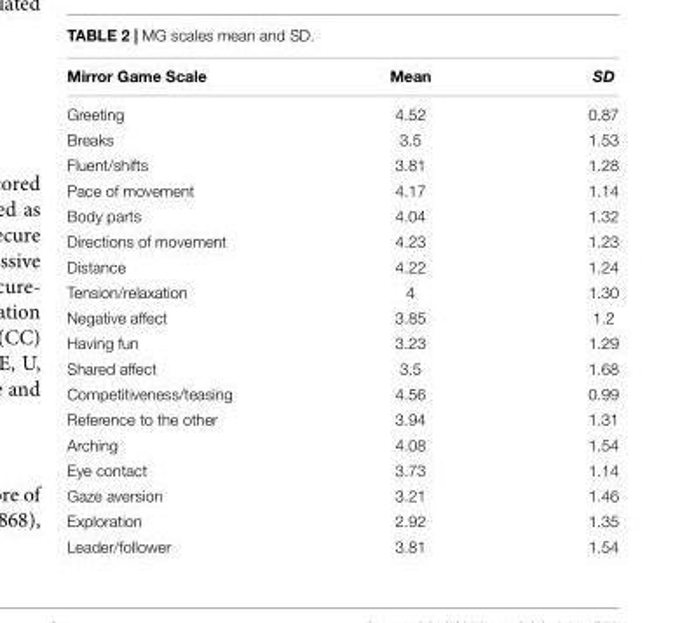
<table><thead><tr><td>Mirror Game Scale</td><td>Mean</td><td>SD</td></tr></thead><tbody><tr><td>Greeting</td><td>4.52</td><td>0.87</td></tr><tr><td>Breaks</td><td>3.5</td><td>1.53</td></tr><tr><td>Fluent/shifts</td><td>3.81</td><td>1.28</td></tr><tr><td>Pace of movement</td><td>4.17</td><td>1.14</td></tr><tr><td>Body parts</td><td>4.04</td><td>1.32</td></tr><tr><td>Directions of movement</td><td>4.23</td><td>1.23</td></tr><tr><td>Distance</td><td>4.22</td><td>1.24</td></tr><tr><td>Tension/relaxation</td><td>4</td><td>1.30</td></tr><tr><td>Negative affect</td><td>3.85</td><td>1.2</td></tr><tr><td>Having fun</td><td>3.23</td><td>1.29</td></tr><tr><td>Shared affect</td><td>3.5</td><td>1.68</td></tr><tr><td>Competitiveness/teasing</td><td>4.56</td><td>0.99</td></tr><tr><td>Reference to the other</td><td>3.94</td><td>1.31</td></tr><tr><td>Arching</td><td>4.08</td><td>1.54</td></tr><tr><td>Eye contact</td><td>3.73</td><td>1.14</td></tr><tr><td>Gaze aversion</td><td>3.21</td><td>1.46</td></tr><tr><td>Exploration</td><td>2.92</td><td>1.35</td></tr><tr><td>Leader/follower</td><td>3.81</td><td>1.54</td></tr></tbody></table>